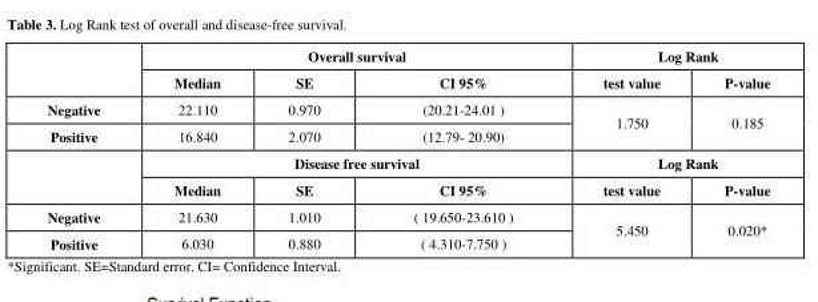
<table><thead><tr><td rowspan="2"></td><td colspan="3">Overall survival</td><td colspan="2">Log Rank</td></tr><tr><td>Median</td><td>SE</td><td>CI 95%</td><td>test value</td><td>P-value</td></tr></thead><tbody><tr><td>Negative</td><td>22.110</td><td>0.970</td><td>(20.21-24.01 )</td><td rowspan="2">1.750</td><td rowspan="2">0.185</td></tr><tr><td rowspan="3">Positive</td><td>16.840</td><td>2.070</td><td>(12.79- 20.90)</td></tr><tr><td colspan="3">Disease free survival</td><td colspan="2">Log Rank</td></tr><tr><td>Median</td><td>SE</td><td>CI 95%</td><td>test value</td><td>P-value</td></tr><tr><td>Negative</td><td>21.630</td><td>1.010</td><td>( 19.650-23.610 )</td><td rowspan="2">5.450</td><td rowspan="2">0.020*</td></tr><tr><td>Positive</td><td>6.030</td><td>0.880</td><td>( 4.310-7.750 )</td></tr></tbody></table>